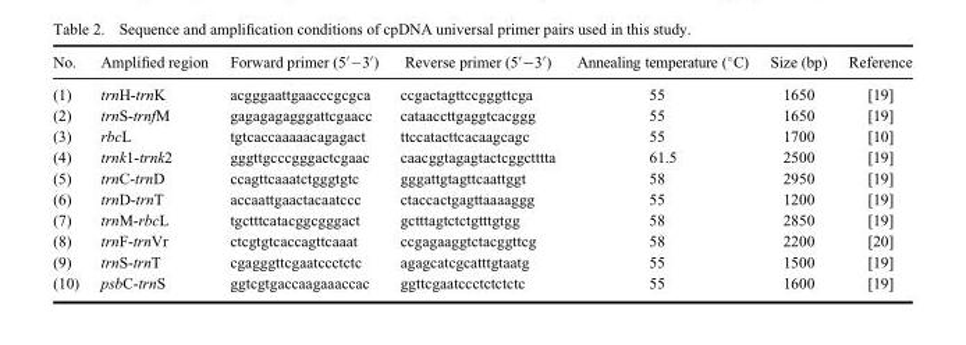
<table><thead><tr><td>No.</td><td>Amplified region</td><td>Forward primer (5′–3′)</td><td>Reverse primer (5′−3′)</td><td>Annealing temperature (°C)</td><td>Size (bp)</td><td>Reference</td></tr></thead><tbody><tr><td>(1)</td><td>trnH-trnK</td><td>acgggaattgaacccgcgca</td><td>ccgactagttccgggttcga</td><td>55</td><td>1650</td><td>[19]</td></tr><tr><td>(2)</td><td>trnS-trnfM</td><td>gagagagagggattcgaacc</td><td>cataaccttgaggtcacggg</td><td>55</td><td>1650</td><td>[19]</td></tr><tr><td>(3)</td><td>rbcL</td><td>tgtcaccaaaaacagagact</td><td>ttccatacttcacaagcagc</td><td>55</td><td>1700</td><td>[10]</td></tr><tr><td>(4)</td><td>trnk1-trnk2</td><td>gggttgcccgggactcgaac</td><td>caacggtagagtactcggctttta</td><td>61.5</td><td>2500</td><td>[19]</td></tr><tr><td>(5)</td><td>trnC-trnD</td><td>ccagttcaaatctgggtgtc</td><td>gggattgtagttcaattggt</td><td>58</td><td>2950</td><td>[19]</td></tr><tr><td>(6)</td><td>trnD-trnT</td><td>accaattgaactacaatccc</td><td>ctaccactgagttaaaaggg</td><td>55</td><td>1200</td><td>[19]</td></tr><tr><td>(7)</td><td>trnM-rbcL</td><td>tgctttcatacggcgggact</td><td>gctttagtctctgtttgtgg</td><td>58</td><td>2850</td><td>[19]</td></tr><tr><td>(8)</td><td>trnF-trnVr</td><td>ctcgtgtcaccagttcaaat</td><td>ccgagaaggtctacggttcg</td><td>58</td><td>2200</td><td>[20]</td></tr><tr><td>(9)</td><td>trnS-trnT</td><td>cgagggttcgaatccctctc</td><td>agagcatcgcatttgtaatg</td><td>55</td><td>1500</td><td>[19]</td></tr><tr><td>(10)</td><td>psbC-trnS</td><td>ggtcgtgaccaagaaaccac</td><td>ggttcgaatccctctctctc</td><td>55</td><td>1600</td><td>[19]</td></tr></tbody></table>